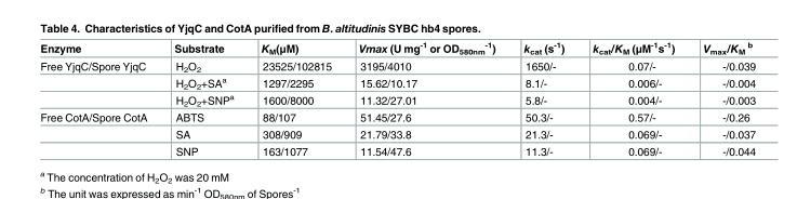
<table><thead><tr><td>Enzyme</td><td>Substrate</td><td>K<sub>M</sub>(μM)</td><td>Vmax (U mg<sup>-1</sup> or OD<sub>580nm</sub> <sup>-1</sup>)</td><td>k<sub>cat</sub> (s<sup>-1</sup>)</td><td>k<sub>cat</sub>/K<sub>M</sub> (μM<sup>-1</sup>s<sup>-1</sup>)</td><td>V<sub>max</sub>/K<sub>M</sub> <sup>b</sup></td></tr></thead><tbody><tr><td rowspan="3">Free YjqC/Spore YjqC</td><td>H<sub>2</sub>O<sub>2</sub></td><td>23525/102815</td><td>3195/4010</td><td>1650/-</td><td>0.07/-</td><td>-/0.039</td></tr><tr><td>H<sub>2</sub>O<sub>2</sub>+SA<sup>a</sup></td><td>1297/2295</td><td>15.62/10.17</td><td>8.1/-</td><td>0.006/-</td><td>-/0.004</td></tr><tr><td>H<sub>2</sub>O<sub>2</sub>+SNP<sup>a</sup></td><td>1600/8000</td><td>11.32/27.01</td><td>5.8/-</td><td>0.004/-</td><td>-/0.003</td></tr><tr><td rowspan="3">Free CotA/Spore CotA</td><td>ABTS</td><td>88/107</td><td>51.45/27.6</td><td>50.3/-</td><td>0.57/-</td><td>-/0.26</td></tr><tr><td>SA</td><td>308/909</td><td>21.79/33.8</td><td>21.3/-</td><td>0.069/-</td><td>-/0.037</td></tr><tr><td>SNP</td><td>163/1077</td><td>11.54/47.6</td><td>11.3/-</td><td>0.069/-</td><td>-/0.044</td></tr></tbody></table>